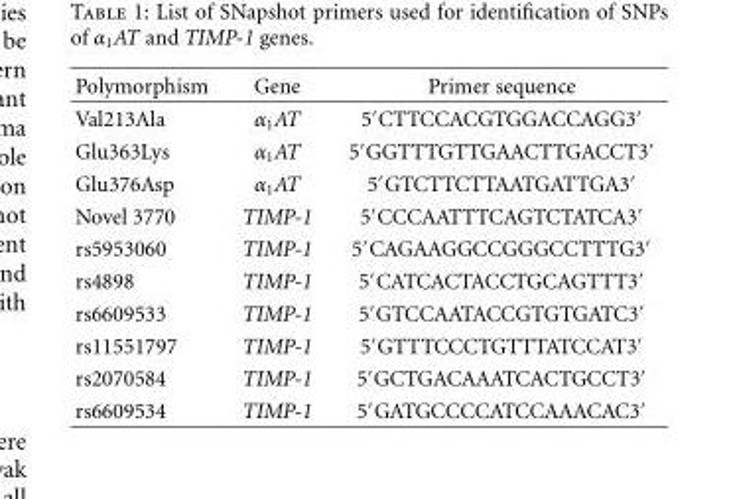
<table><thead><tr><td>Polymorphism</td><td>Gene</td><td>Primer sequence</td></tr></thead><tbody><tr><td>Val213Ala</td><td>α<sub>1</sub>AT</td><td>5′CTTCCACGTGGACCAGG3′</td></tr><tr><td>Glu363Lys</td><td>α<sub>1</sub>AT</td><td>5′GGTTTGTTGAACTTGACCT3′</td></tr><tr><td>Glu376Asp</td><td>α<sub>1</sub>AT</td><td>5′GTCTTCTTAATGATTGA3′</td></tr><tr><td>Novel 3770</td><td>TIMP-1</td><td>5′CCCAATTTCAGTCTATCA3′</td></tr><tr><td>rs5953060</td><td>TIMP-1</td><td>5′CAGAAGGCCGGGCCTTTG3′</td></tr><tr><td>rs4898</td><td>TIMP-1</td><td>5′CATCACTACCTGCAGTTT3′</td></tr><tr><td>rs6609533</td><td>TIMP-1</td><td>5′GTCCAATACCGTGTGATC3′</td></tr><tr><td>rs11551797</td><td>TIMP-1</td><td>5′GTTTCCCTGTTTATCCAT3′</td></tr><tr><td>rs2070584</td><td>TIMP-1</td><td>5′GCTGACAAATCACTGCCT3′</td></tr><tr><td>rs6609534</td><td>TIMP-1</td><td>5′GATGCCCCATCCAAACAC3′</td></tr></tbody></table>